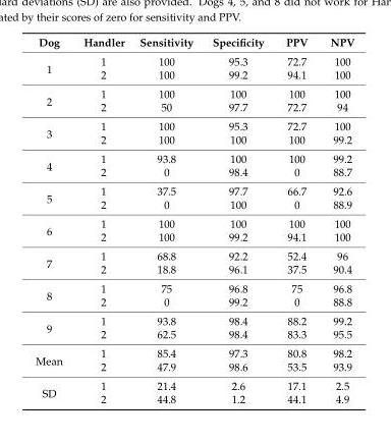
<table><thead><tr><td>Dog</td><td>Handler</td><td>Sensitivity</td><td>Specificity</td><td>PPV</td><td>NPV</td></tr></thead><tbody><tr><td rowspan="2">1</td><td>1</td><td>100</td><td>95.3</td><td>72.7</td><td>100</td></tr><tr><td>2</td><td>100</td><td>99.2</td><td>94.1</td><td>100</td></tr><tr><td rowspan="2">2</td><td>1</td><td>100</td><td>100</td><td>100</td><td>100</td></tr><tr><td>2</td><td>50</td><td>97.7</td><td>72.7</td><td>94</td></tr><tr><td rowspan="2">3</td><td>1</td><td>100</td><td>95.3</td><td>72.7</td><td>100</td></tr><tr><td>2</td><td>100</td><td>100</td><td>100</td><td>99.2</td></tr><tr><td rowspan="2">4</td><td>1</td><td>93.8</td><td>100</td><td>100</td><td>99.2</td></tr><tr><td>2</td><td>0</td><td>98.4</td><td>0</td><td>88.7</td></tr><tr><td rowspan="2">5</td><td>1</td><td>37.5</td><td>97.7</td><td>66.7</td><td>92.6</td></tr><tr><td>2</td><td>0</td><td>100</td><td>0</td><td>88.9</td></tr><tr><td rowspan="2">6</td><td>1</td><td>100</td><td>100</td><td>100</td><td>100</td></tr><tr><td>2</td><td>100</td><td>99.2</td><td>94.1</td><td>100</td></tr><tr><td rowspan="2">7</td><td>1</td><td>68.8</td><td>92.2</td><td>52.4</td><td>96</td></tr><tr><td>2</td><td>18.8</td><td>96.1</td><td>37.5</td><td>90.4</td></tr><tr><td rowspan="2">8</td><td>1</td><td>75</td><td>96.8</td><td>75</td><td>96.8</td></tr><tr><td>2</td><td>0</td><td>99.2</td><td>0</td><td>88.8</td></tr><tr><td rowspan="2">9</td><td>1</td><td>93.8</td><td>98.4</td><td>88.2</td><td>99.2</td></tr><tr><td>2</td><td>62.5</td><td>98.4</td><td>83.3</td><td>95.5</td></tr><tr><td rowspan="2">Mean</td><td>1</td><td>85.4</td><td>97.3</td><td>80.8</td><td>98.2</td></tr><tr><td>2</td><td>47.9</td><td>98.6</td><td>53.5</td><td>93.9</td></tr><tr><td rowspan="2">SD</td><td>1</td><td>21.4</td><td>2.6</td><td>17.1</td><td>2.5</td></tr><tr><td>2</td><td>44.8</td><td>1.2</td><td>44.1</td><td>4.9</td></tr></tbody></table>